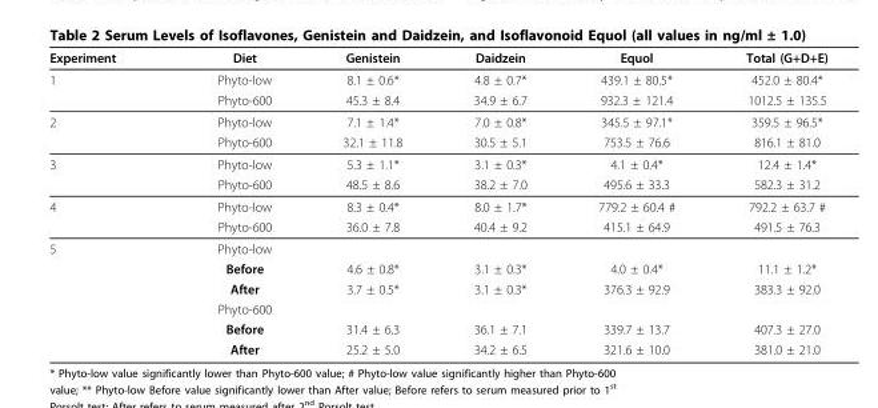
<table><thead><tr><td>Experiment</td><td>Diet</td><td>Genistein</td><td>Daidzein</td><td>Equol</td><td>Total (G+D+E)</td></tr></thead><tbody><tr><td rowspan="2">1</td><td>Phyto-low</td><td>8.1 ± 0.6*</td><td>4.8 ± 0.7*</td><td>439.1 ± 80.5*</td><td>452.0 ± 80.4*</td></tr><tr><td>Phyto-600</td><td>45.3 ± 8.4</td><td>34.9 ± 6.7</td><td>932.3 ± 121.4</td><td>1012.5 ± 135.5</td></tr><tr><td rowspan="2">2</td><td>Phyto-low</td><td>7.1 ± 1.4*</td><td>7.0 ± 0.8*</td><td>345.5 ± 97.1*</td><td>359.5 ± 96.5*</td></tr><tr><td>Phyto-600</td><td>32.1 ± 11.8</td><td>30.5 ± 5.1</td><td>753.5 ± 76.6</td><td>816.1 ± 81.0</td></tr><tr><td rowspan="2">3</td><td>Phyto-low</td><td>5.3 ± 1.1*</td><td>3.1 ± 0.3*</td><td>4.1 ± 0.4*</td><td>12.4 ± 1.4*</td></tr><tr><td>Phyto-600</td><td>48.5 ± 8.6</td><td>38.2 ± 7.0</td><td>495.6 ± 33.3</td><td>582.3 ± 31.2</td></tr><tr><td rowspan="2">4</td><td>Phyto-low</td><td>8.3 ± 0.4*</td><td>8.0 ± 1.7*</td><td>779.2 ± 60.4 #</td><td>792.2 ± 63.7 #</td></tr><tr><td>Phyto-600</td><td>36.0 ± 7.8</td><td>40.4 ± 9.2</td><td>415.1 ± 64.9</td><td>491.5 ± 76.3</td></tr><tr><td rowspan="6">5</td><td>Phyto-low</td><td></td><td></td><td></td><td></td></tr><tr><td>Before</td><td>4.6 ± 0.8*</td><td>3.1 ± 0.3*</td><td>4.0 ± 0.4*</td><td>11.1 ± 1.2*</td></tr><tr><td>After</td><td>3.7 ± 0.5*</td><td>3.1 ± 0.3*</td><td>376.3 ± 92.9</td><td>383.3 ± 92.0</td></tr><tr><td>Phyto-600</td><td></td><td></td><td></td><td></td></tr><tr><td>Before</td><td>31.4 ± 6.3</td><td>36.1 ± 7.1</td><td>339.7 ± 13.7</td><td>407.3 ± 27.0</td></tr><tr><td>After</td><td>25.2 ± 5.0</td><td>34.2 ± 6.5</td><td>321.6 ± 10.0</td><td>381.0 ± 21.0</td></tr></tbody></table>